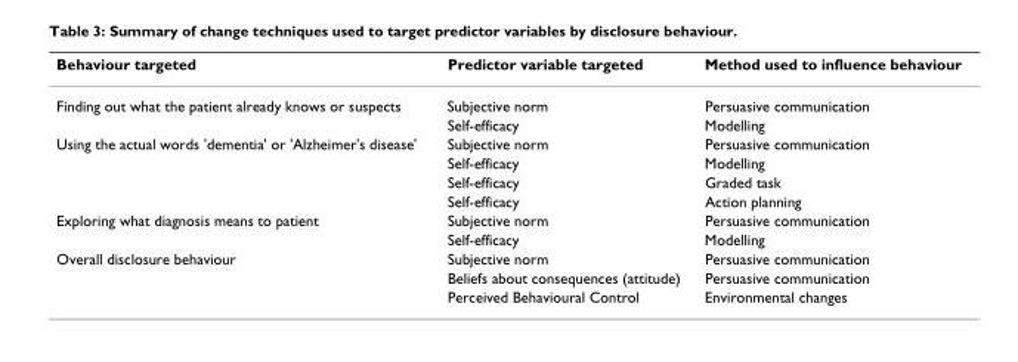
<table><thead><tr><td>Behaviour targeted</td><td>Predictor variable targeted</td><td>Method used to influence behaviour</td></tr></thead><tbody><tr><td rowspan="2">Finding out what the patient already knows or suspects</td><td>Subjective norm</td><td>Persuasive communication</td></tr><tr><td>Self-efficacy</td><td>Modelling</td></tr><tr><td rowspan="4">Using the actual words &#x27;dementia&#x27; or &#x27;Alzheimer&#x27;s disease&#x27;</td><td>Subjective norm</td><td>Persuasive communication</td></tr><tr><td>Self-efficacy</td><td>Modelling</td></tr><tr><td>Self-efficacy</td><td>Graded task</td></tr><tr><td>Self-efficacy</td><td>Action planning</td></tr><tr><td rowspan="2">Exploring what diagnosis means to patient</td><td>Subjective norm</td><td>Persuasive communication</td></tr><tr><td>Self-efficacy</td><td>Modelling</td></tr><tr><td rowspan="3">Overall disclosure behaviour</td><td>Subjective norm</td><td>Persuasive communication</td></tr><tr><td>Beliefs about consequences (attitude)</td><td>Persuasive communication</td></tr><tr><td>Perceived Behavioural Control</td><td>Environmental changes</td></tr></tbody></table>